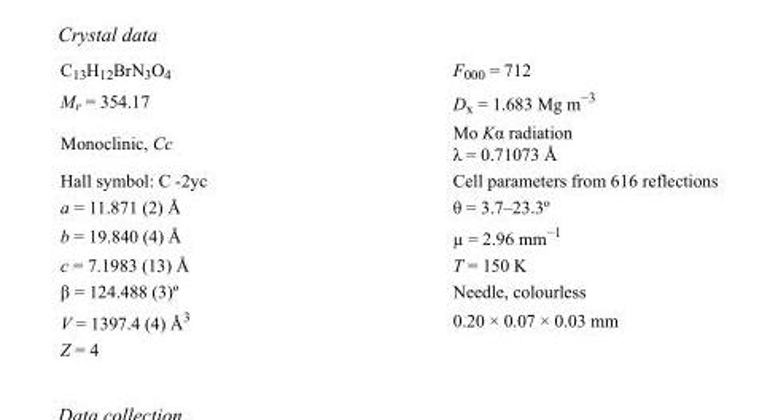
<table><tbody><tr><td>C<sub>13</sub>H<sub>12</sub>BrN<sub>3</sub>O<sub>4</sub></td><td>F000 = 712</td></tr><tr><td>M<sub>r</sub> = 354.17</td><td>D<sub>x</sub> = 1.683 Mg m<sup>−3</sup></td></tr><tr><td>Monoclinic, Cc</td><td>Mo Kα radiation λ = 0.71073 Å</td></tr><tr><td>Hall symbol: C -2yc</td><td>Cell parameters from 616 reflections</td></tr><tr><td>a = 11.871 (2) Å</td><td>θ = 3.7–23.3º</td></tr><tr><td>b = 19.840 (4) Å</td><td>µ = 2.96 mm<sup>−1</sup></td></tr><tr><td>c = 7.1983 (13) Å</td><td>T = 150 K</td></tr><tr><td>β = 124.488 (3)º</td><td>Needle, colourless</td></tr><tr><td>V = 1397.4 (4) Å<sup>3</sup></td><td>0.20 × 0.07 × 0.03 mm</td></tr><tr><td>Z = 4</td><td></td></tr></tbody></table>